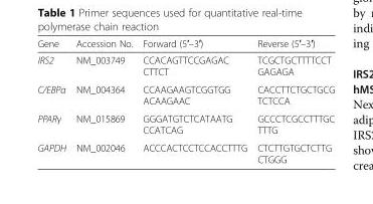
<table><thead><tr><td>Gene</td><td>Accession No.</td><td>Forward (5′–3′)</td><td>Reverse (5′–3′)</td></tr></thead><tbody><tr><td>IRS2</td><td>NM_003749</td><td>CCACAGTTCCGAGAC CTTCT</td><td>TCGCTGCTTTTCCT GAGAGA</td></tr><tr><td>C/EBPα</td><td>NM_004364</td><td>CCAAGAAGTCGGTGG ACAAGAAC</td><td>CACCTTCTGCTGCG TCTCCA</td></tr><tr><td>PPARγ</td><td>NM_015869</td><td>GGGATGTCTCATAATG CCATCAG</td><td>GCCCTCGCCTTTGC TTTG</td></tr><tr><td>GAPDH</td><td>NM_002046</td><td>ACCCACTCCTCCACCTTTG</td><td>CTCTTGTGCTCTTG CTGGG</td></tr></tbody></table>